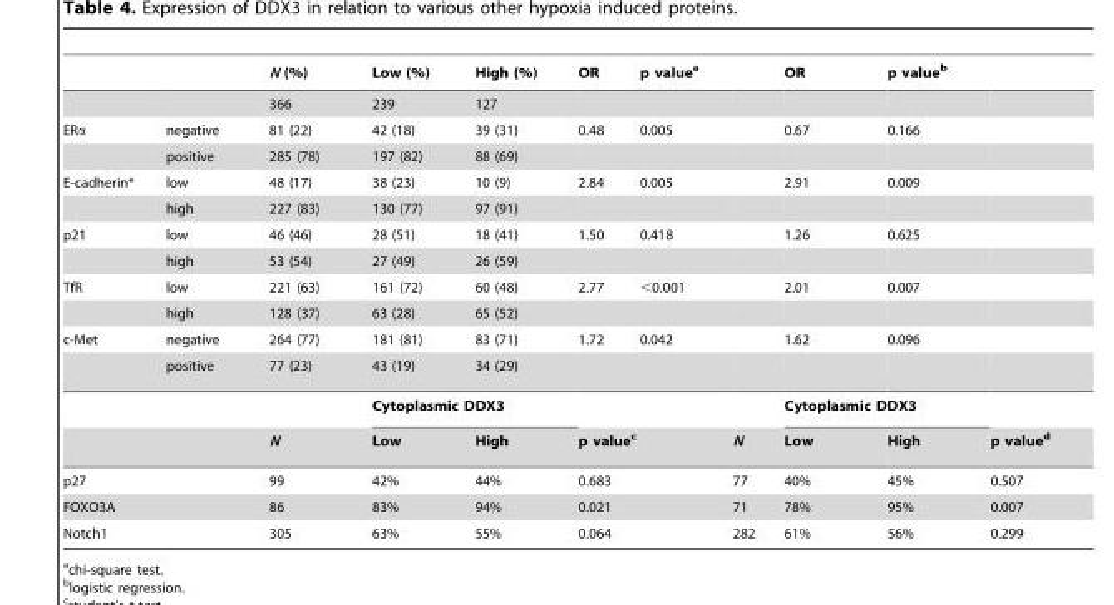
<table><thead><tr><td></td><td></td><td>N (%)</td><td>Low (%)</td><td>High (%)</td><td>OR</td><td>p value<sup>a</sup></td><td></td><td>OR</td><td>p value<sup>b</sup></td><td></td></tr></thead><tbody><tr><td></td><td></td><td>366</td><td>239</td><td>127</td><td></td><td></td><td></td><td></td><td></td><td></td></tr><tr><td rowspan="2">ERα</td><td>negative</td><td>81 (22)</td><td>42 (18)</td><td>39 (31)</td><td>0.48</td><td>0.005</td><td></td><td>0.67</td><td>0.166</td><td></td></tr><tr><td>positive</td><td>285 (78)</td><td>197 (82)</td><td>88 (69)</td><td></td><td></td><td></td><td></td><td></td><td></td></tr><tr><td rowspan="2">E-cadherin*</td><td>low</td><td>48 (17)</td><td>38 (23)</td><td>10 (9)</td><td>2.84</td><td>0.005</td><td></td><td>2.91</td><td>0.009</td><td></td></tr><tr><td>high</td><td>227 (83)</td><td>130 (77)</td><td>97 (91)</td><td></td><td></td><td></td><td></td><td></td><td></td></tr><tr><td rowspan="2">p21</td><td>low</td><td>46 (46)</td><td>28 (51)</td><td>18 (41)</td><td>1.50</td><td>0.418</td><td></td><td>1.26</td><td>0.625</td><td></td></tr><tr><td>high</td><td>53 (54)</td><td>27 (49)</td><td>26 (59)</td><td></td><td></td><td></td><td></td><td></td><td></td></tr><tr><td rowspan="2">TfR</td><td>low</td><td>221 (63)</td><td>161 (72)</td><td>60 (48)</td><td>2.77</td><td>&lt;0.001</td><td></td><td>2.01</td><td>0.007</td><td></td></tr><tr><td>high</td><td>128 (37)</td><td>63 (28)</td><td>65 (52)</td><td></td><td></td><td></td><td></td><td></td><td></td></tr><tr><td rowspan="4">c-Met</td><td>negative</td><td>264 (77)</td><td>181 (81)</td><td>83 (71)</td><td>1.72</td><td>0.042</td><td></td><td>1.62</td><td>0.096</td><td></td></tr><tr><td>positive</td><td>77 (23)</td><td>43 (19)</td><td>34 (29)</td><td></td><td></td><td></td><td></td><td></td><td></td></tr><tr><td></td><td></td><td colspan="2">Cytoplasmic DDX3</td><td></td><td></td><td></td><td colspan="2">Cytoplasmic DDX3</td><td></td></tr><tr><td></td><td>N</td><td>Low</td><td>High</td><td colspan="2">p valuec</td><td>N</td><td>Low</td><td>High</td><td>p valued</td></tr><tr><td>p27</td><td></td><td>99</td><td>42%</td><td>44%</td><td colspan="2">0.683</td><td>77</td><td>40%</td><td>45%</td><td>0.507</td></tr><tr><td>FOXO3A</td><td></td><td>86</td><td>83%</td><td>94%</td><td colspan="2">0.021</td><td>71</td><td>78%</td><td>95%</td><td>0.007</td></tr><tr><td>Notch1</td><td></td><td>305</td><td>63%</td><td>55%</td><td colspan="2">0.064</td><td>282</td><td>61%</td><td>56%</td><td>0.299</td></tr></tbody></table>